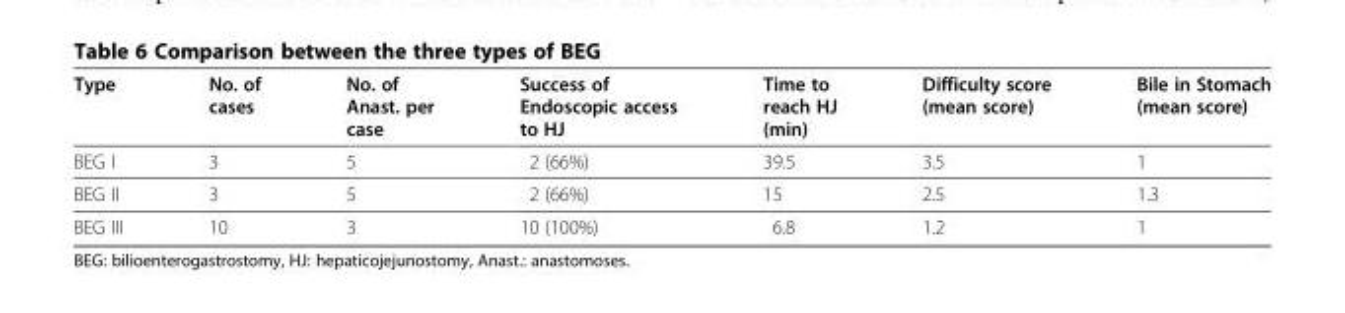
<table><thead><tr><td>Type</td><td>No. of cases</td><td>No. of Anast. per case</td><td>Success of Endoscopic access to HJ</td><td>Time to reach HJ (min)</td><td>Difficulty score (mean score)</td><td>Bile in Stomach (mean score)</td></tr></thead><tbody><tr><td>BEG I</td><td>3</td><td>5</td><td>2 (66%)</td><td>39.5</td><td>3.5</td><td>1</td></tr><tr><td>BEG II</td><td>3</td><td>5</td><td>2 (66%)</td><td>15</td><td>2.5</td><td>1.3</td></tr><tr><td>BEG III</td><td>10</td><td>3</td><td>10 (100%)</td><td>6.8</td><td>1.2</td><td>1</td></tr></tbody></table>